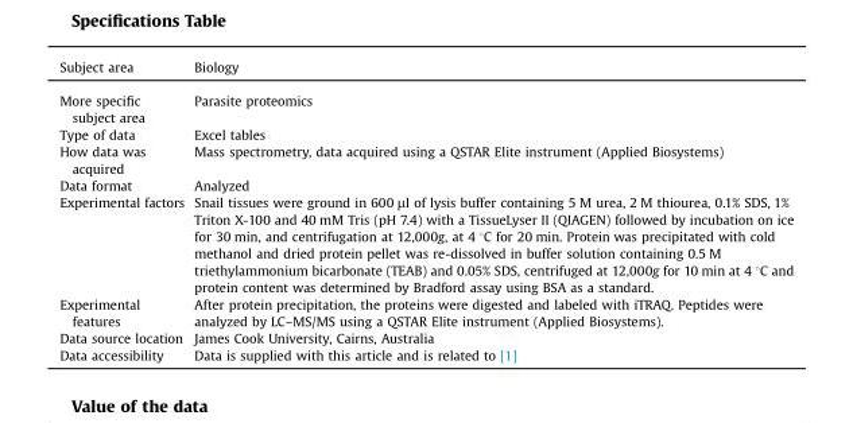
<table><tbody><tr><td>Subject area</td><td>Biology</td></tr><tr><td>More specific subject area</td><td>Parasite proteomics</td></tr><tr><td>Type of data</td><td>Excel tables</td></tr><tr><td>How data was acquired</td><td>Mass spectrometry, data acquired using a QSTAR Elite instrument (Applied Biosystems)</td></tr><tr><td>Data format</td><td>Analyzed</td></tr><tr><td>Experimental factors</td><td>Snail tissues were ground in 600 µl of lysis buffer containing 5 M urea, 2 M thiourea, 0.1% SDS, 1% Triton X-100 and 40 mM Tris (pH 7.4) with a TissueLyser II (QIAGEN) followed by incubation on ice for 30 min, and centrifugation at 12,000g, at 4 °C for 20 min. Protein was precipitated with cold methanol and dried protein pellet was re-dissolved in buffer solution containing 0.5 M triethylammonium bicarbonate (TEAB) and 0.05% SDS, centrifuged at 12,000g for 10 min at 4 °C and protein content was determined by Bradford assay using BSA as a standard.</td></tr><tr><td>Experimental features</td><td>After protein precipitation, the proteins were digested and labeled with iTRAQ. Peptides were analyzed by LC–MS/MS using a QSTAR Elite instrument (Applied Biosystems).</td></tr><tr><td>Data source location</td><td>James Cook University, Cairns, Australia</td></tr><tr><td>Data accessibility</td><td>Data is supplied with this article and is related to [1]</td></tr></tbody></table>